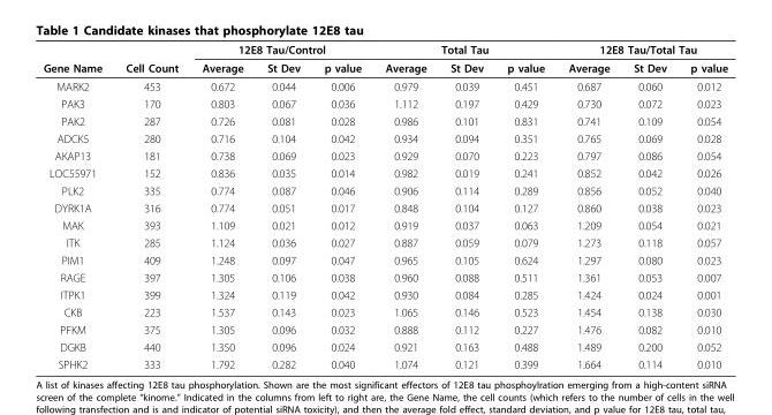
<table><thead><tr><td rowspan="2">Gene Name</td><td rowspan="2">Cell Count</td><td colspan="3">12E8 Tau/Control</td><td colspan="3">Total Tau</td><td colspan="3">12E8 Tau/Total Tau</td></tr><tr><td>Average</td><td>St Dev</td><td>p value</td><td>Average</td><td>St Dev</td><td>p value</td><td>Average</td><td>St Dev</td><td>p value</td></tr></thead><tbody><tr><td>MARK2</td><td>453</td><td>0.672</td><td>0.044</td><td>0.006</td><td>0.979</td><td>0.039</td><td>0.451</td><td>0.687</td><td>0.060</td><td>0.012</td></tr><tr><td>PAK3</td><td>170</td><td>0.803</td><td>0.067</td><td>0.036</td><td>1.112</td><td>0.197</td><td>0.429</td><td>0.730</td><td>0.072</td><td>0.023</td></tr><tr><td>PAK2</td><td>287</td><td>0.726</td><td>0.081</td><td>0.028</td><td>0.986</td><td>0.101</td><td>0.831</td><td>0.741</td><td>0.109</td><td>0.054</td></tr><tr><td>ADCK5</td><td>280</td><td>0.716</td><td>0.104</td><td>0.042</td><td>0.934</td><td>0.094</td><td>0.351</td><td>0.765</td><td>0.069</td><td>0.028</td></tr><tr><td>AKAP13</td><td>181</td><td>0.738</td><td>0.069</td><td>0.023</td><td>0.929</td><td>0.070</td><td>0.223</td><td>0.797</td><td>0.086</td><td>0.054</td></tr><tr><td>LOC55971</td><td>152</td><td>0.836</td><td>0.035</td><td>0.014</td><td>0.982</td><td>0.019</td><td>0.241</td><td>0.852</td><td>0.042</td><td>0.026</td></tr><tr><td>PLK2</td><td>335</td><td>0.774</td><td>0.087</td><td>0.046</td><td>0.906</td><td>0.114</td><td>0.289</td><td>0.856</td><td>0.052</td><td>0.040</td></tr><tr><td>DYRK1A</td><td>316</td><td>0.774</td><td>0.051</td><td>0.017</td><td>0.848</td><td>0.104</td><td>0.127</td><td>0.860</td><td>0.038</td><td>0.023</td></tr><tr><td>MAK</td><td>393</td><td>1.109</td><td>0.021</td><td>0.012</td><td>0.919</td><td>0.037</td><td>0.063</td><td>1.209</td><td>0.054</td><td>0.021</td></tr><tr><td>ITK</td><td>285</td><td>1.124</td><td>0.036</td><td>0.027</td><td>0.887</td><td>0.059</td><td>0.079</td><td>1.273</td><td>0.118</td><td>0.057</td></tr><tr><td>PIM1</td><td>409</td><td>1.248</td><td>0.097</td><td>0.047</td><td>0.965</td><td>0.105</td><td>0.624</td><td>1.297</td><td>0.080</td><td>0.023</td></tr><tr><td>RAGE</td><td>397</td><td>1.305</td><td>0.106</td><td>0.038</td><td>0.960</td><td>0.088</td><td>0.511</td><td>1.361</td><td>0.053</td><td>0.007</td></tr><tr><td>ITPK1</td><td>399</td><td>1.324</td><td>0.119</td><td>0.042</td><td>0.930</td><td>0.084</td><td>0.285</td><td>1.424</td><td>0.024</td><td>0.001</td></tr><tr><td>CKB</td><td>223</td><td>1.537</td><td>0.143</td><td>0.023</td><td>1.065</td><td>0.146</td><td>0.523</td><td>1.454</td><td>0.138</td><td>0.030</td></tr><tr><td>PFKM</td><td>375</td><td>1.305</td><td>0.096</td><td>0.032</td><td>0.888</td><td>0.112</td><td>0.227</td><td>1.476</td><td>0.082</td><td>0.010</td></tr><tr><td>DGKB</td><td>440</td><td>1.350</td><td>0.096</td><td>0.024</td><td>0.921</td><td>0.163</td><td>0.488</td><td>1.489</td><td>0.200</td><td>0.052</td></tr><tr><td>SPHK2</td><td>333</td><td>1.792</td><td>0.282</td><td>0.040</td><td>1.074</td><td>0.121</td><td>0.399</td><td>1.664</td><td>0.114</td><td>0.010</td></tr></tbody></table>